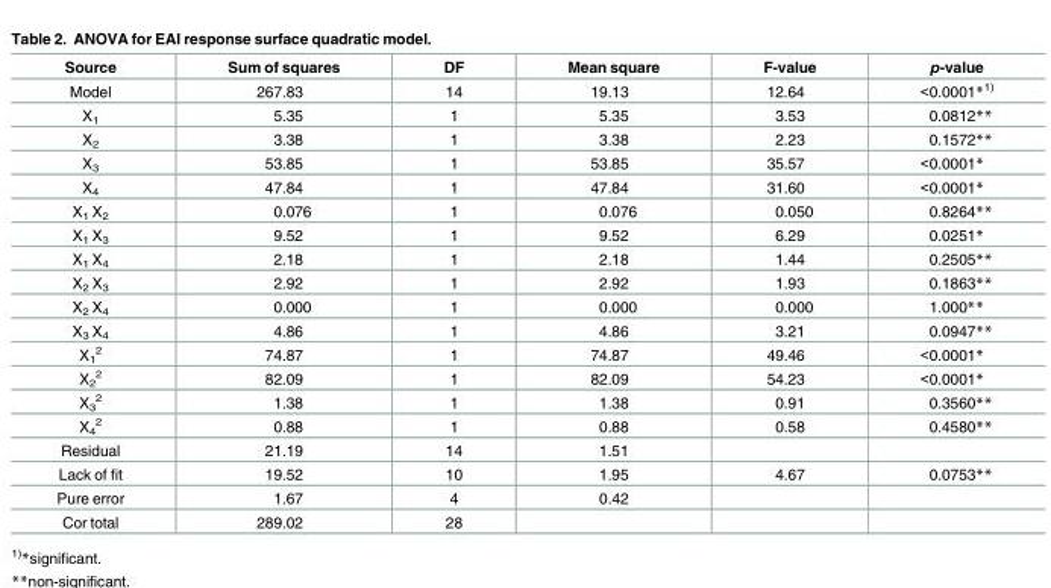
<table><thead><tr><td>Source</td><td>Sum of squares</td><td>DF</td><td>Mean square</td><td>F-value</td><td>p-value</td></tr></thead><tbody><tr><td>Model</td><td>267.83</td><td>14</td><td>19.13</td><td>12.64</td><td>&lt;0.0001*<sup>1)</sup></td></tr><tr><td>X<sub>1</sub></td><td>5.35</td><td>1</td><td>5.35</td><td>3.53</td><td>0.0812**</td></tr><tr><td>X<sub>2</sub></td><td>3.38</td><td>1</td><td>3.38</td><td>2.23</td><td>0.1572**</td></tr><tr><td>X<sub>3</sub></td><td>53.85</td><td>1</td><td>53.85</td><td>35.57</td><td>&lt;0.0001*</td></tr><tr><td>X<sub>4</sub></td><td>47.84</td><td>1</td><td>47.84</td><td>31.60</td><td>&lt;0.0001*</td></tr><tr><td>X<sub>1</sub> X<sub>2</sub></td><td>0.076</td><td>1</td><td>0.076</td><td>0.050</td><td>0.8264**</td></tr><tr><td>X<sub>1</sub> X<sub>3</sub></td><td>9.52</td><td>1</td><td>9.52</td><td>6.29</td><td>0.0251*</td></tr><tr><td>X<sub>1</sub> X<sub>4</sub></td><td>2.18</td><td>1</td><td>2.18</td><td>1.44</td><td>0.2505**</td></tr><tr><td>X<sub>2</sub> X<sub>3</sub></td><td>2.92</td><td>1</td><td>2.92</td><td>1.93</td><td>0.1863**</td></tr><tr><td>X<sub>2</sub> X<sub>4</sub></td><td>0.000</td><td>1</td><td>0.000</td><td>0.000</td><td>1.000**</td></tr><tr><td>X<sub>3</sub> X<sub>4</sub></td><td>4.86</td><td>1</td><td>4.86</td><td>3.21</td><td>0.0947**</td></tr><tr><td>X<sub>1</sub> <sup>2</sup></td><td>74.87</td><td>1</td><td>74.87</td><td>49.46</td><td>&lt;0.0001*</td></tr><tr><td>X<sub>2</sub> <sup>2</sup></td><td>82.09</td><td>1</td><td>82.09</td><td>54.23</td><td>&lt;0.0001*</td></tr><tr><td>X<sub>3</sub> <sup>2</sup></td><td>1.38</td><td>1</td><td>1.38</td><td>0.91</td><td>0.3560**</td></tr><tr><td>X<sub>4</sub> <sup>2</sup></td><td>0.88</td><td>1</td><td>0.88</td><td>0.58</td><td>0.4580**</td></tr><tr><td>Residual</td><td>21.19</td><td>14</td><td>1.51</td><td></td><td></td></tr><tr><td>Lack of fit</td><td>19.52</td><td>10</td><td>1.95</td><td>4.67</td><td>0.0753**</td></tr><tr><td>Pure error</td><td>1.67</td><td>4</td><td>0.42</td><td></td><td></td></tr><tr><td>Cor total</td><td>289.02</td><td>28</td><td></td><td></td><td></td></tr></tbody></table>